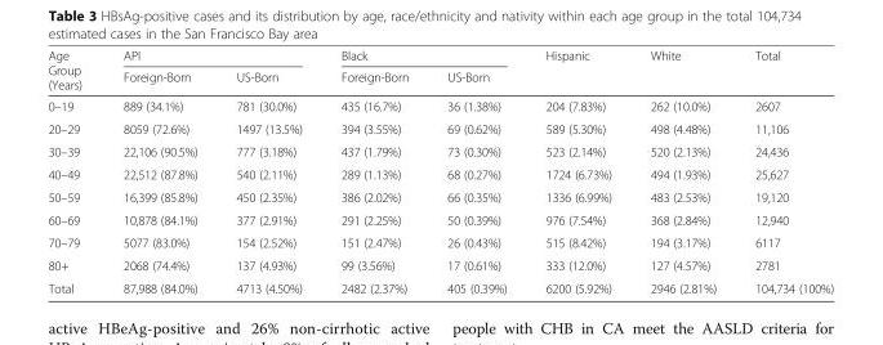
<table><thead><tr><td rowspan="2">Age Group (Years)</td><td colspan="2">API</td><td colspan="2">Black</td><td rowspan="2">Hispanic</td><td rowspan="2">White</td><td rowspan="2">Total</td></tr><tr><td>Foreign-Born</td><td>US-Born</td><td>Foreign-Born</td><td>US-Born</td></tr></thead><tbody><tr><td>0–19</td><td>889 (34.1%)</td><td>781 (30.0%)</td><td>435 (16.7%)</td><td>36 (1.38%)</td><td>204 (7.83%)</td><td>262 (10.0%)</td><td>2607</td></tr><tr><td>20–29</td><td>8059 (72.6%)</td><td>1497 (13.5%)</td><td>394 (3.55%)</td><td>69 (0.62%)</td><td>589 (5.30%)</td><td>498 (4.48%)</td><td>11,106</td></tr><tr><td>30–39</td><td>22,106 (90.5%)</td><td>777 (3.18%)</td><td>437 (1.79%)</td><td>73 (0.30%)</td><td>523 (2.14%)</td><td>520 (2.13%)</td><td>24,436</td></tr><tr><td>40–49</td><td>22,512 (87.8%)</td><td>540 (2.11%)</td><td>289 (1.13%)</td><td>68 (0.27%)</td><td>1724 (6.73%)</td><td>494 (1.93%)</td><td>25,627</td></tr><tr><td>50–59</td><td>16,399 (85.8%)</td><td>450 (2.35%)</td><td>386 (2.02%)</td><td>66 (0.35%)</td><td>1336 (6.99%)</td><td>483 (2.53%)</td><td>19,120</td></tr><tr><td>60–69</td><td>10,878 (84.1%)</td><td>377 (2.91%)</td><td>291 (2.25%)</td><td>50 (0.39%)</td><td>976 (7.54%)</td><td>368 (2.84%)</td><td>12,940</td></tr><tr><td>70–79</td><td>5077 (83.0%)</td><td>154 (2.52%)</td><td>151 (2.47%)</td><td>26 (0.43%)</td><td>515 (8.42%)</td><td>194 (3.17%)</td><td>6117</td></tr><tr><td>80+</td><td>2068 (74.4%)</td><td>137 (4.93%)</td><td>99 (3.56%)</td><td>17 (0.61%)</td><td>333 (12.0%)</td><td>127 (4.57%)</td><td>2781</td></tr><tr><td>Total</td><td>87,988 (84.0%)</td><td>4713 (4.50%)</td><td>2482 (2.37%)</td><td>405 (0.39%)</td><td>6200 (5.92%)</td><td>2946 (2.81%)</td><td>104,734 (100%)</td></tr></tbody></table>